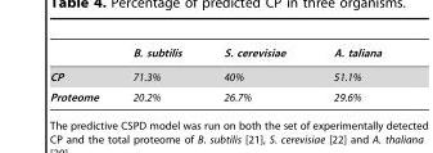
<table><thead><tr><td></td><td>B. subtilis</td><td>S. cerevisiae</td><td>A. taliana</td></tr></thead><tbody><tr><td>CP</td><td>71.3%</td><td>40%</td><td>51.1%</td></tr><tr><td>Proteome</td><td>20.2%</td><td>26.7%</td><td>29.6%</td></tr></tbody></table>